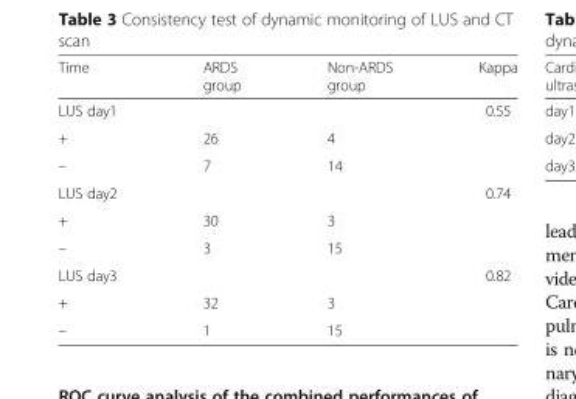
<table><thead><tr><td>Time</td><td>ARDS group</td><td>Non-ARDS group</td><td>Kappa</td></tr></thead><tbody><tr><td>LUS day1</td><td></td><td></td><td>0.55</td></tr><tr><td>+</td><td>26</td><td>4</td><td></td></tr><tr><td>–</td><td>7</td><td>14</td><td></td></tr><tr><td>LUS day2</td><td></td><td></td><td>0.74</td></tr><tr><td>+</td><td>30</td><td>3</td><td></td></tr><tr><td>–</td><td>3</td><td>15</td><td></td></tr><tr><td>LUS day3</td><td></td><td></td><td>0.82</td></tr><tr><td>+</td><td>32</td><td>3</td><td></td></tr><tr><td>–</td><td>1</td><td>15</td><td></td></tr></tbody></table>